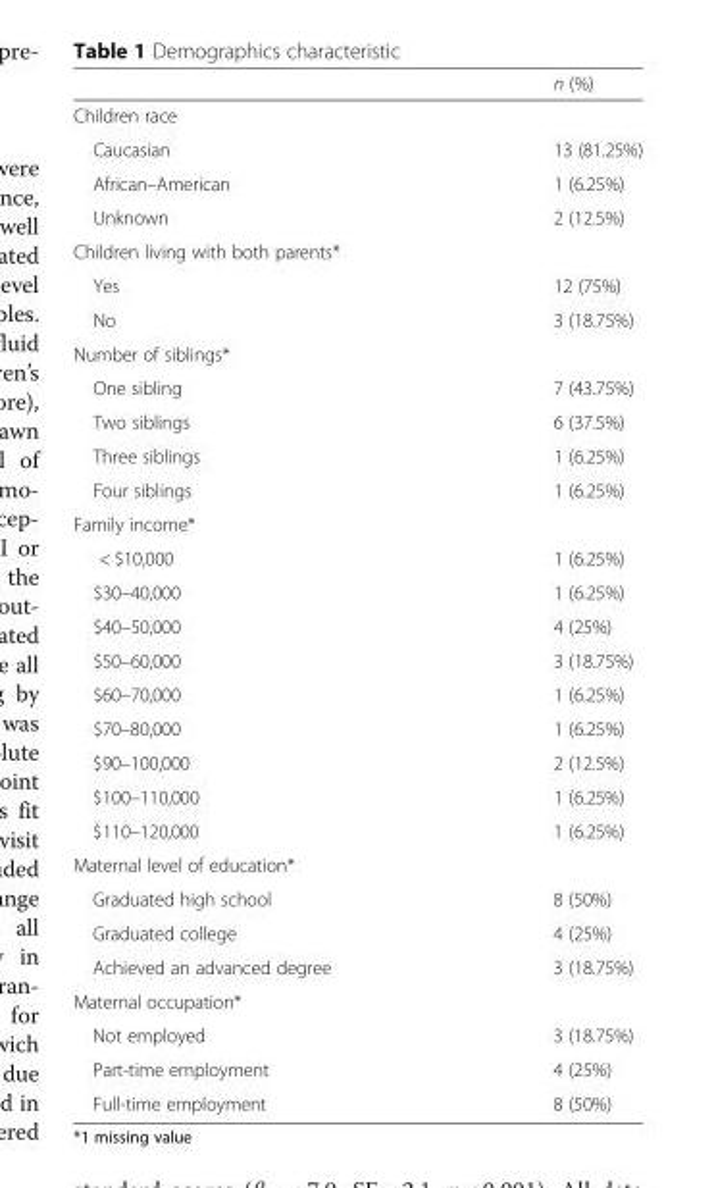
<table><thead><tr><td></td><td>n (%)</td></tr></thead><tbody><tr><td colspan="2">Children race</td></tr><tr><td>Caucasian</td><td>13 (81.25%)</td></tr><tr><td>African–American</td><td>1 (6.25%)</td></tr><tr><td>Unknown</td><td>2 (12.5%)</td></tr><tr><td colspan="2">Children living with both parents*</td></tr><tr><td>Yes</td><td>12 (75%)</td></tr><tr><td>No</td><td>3 (18.75%)</td></tr><tr><td colspan="2">Number of siblings*</td></tr><tr><td>One sibling</td><td>7 (43.75%)</td></tr><tr><td>Two siblings</td><td>6 (37.5%)</td></tr><tr><td>Three siblings</td><td>1 (6.25%)</td></tr><tr><td>Four siblings</td><td>1 (6.25%)</td></tr><tr><td colspan="2">Family income*</td></tr><tr><td>&lt; $10,000</td><td>1 (6.25%)</td></tr><tr><td>$30–40,000</td><td>1 (6.25%)</td></tr><tr><td>$40–50,000</td><td>4 (25%)</td></tr><tr><td>$50–60,000</td><td>3 (18.75%)</td></tr><tr><td>$60–70,000</td><td>1 (6.25%)</td></tr><tr><td>$70–80,000</td><td>1 (6.25%)</td></tr><tr><td>$90–100,000</td><td>2 (12.5%)</td></tr><tr><td>$100–110,000</td><td>1 (6.25%)</td></tr><tr><td>$110–120,000</td><td>1 (6.25%)</td></tr><tr><td colspan="2">Maternal level of education*</td></tr><tr><td>Graduated high school</td><td>8 (50%)</td></tr><tr><td>Graduated college</td><td>4 (25%)</td></tr><tr><td>Achieved an advanced degree</td><td>3 (18.75%)</td></tr><tr><td colspan="2">Maternal occupation*</td></tr><tr><td>Not employed</td><td>3 (18.75%)</td></tr><tr><td>Part-time employment</td><td>4 (25%)</td></tr><tr><td>Full-time employment</td><td>8 (50%)</td></tr></tbody></table>